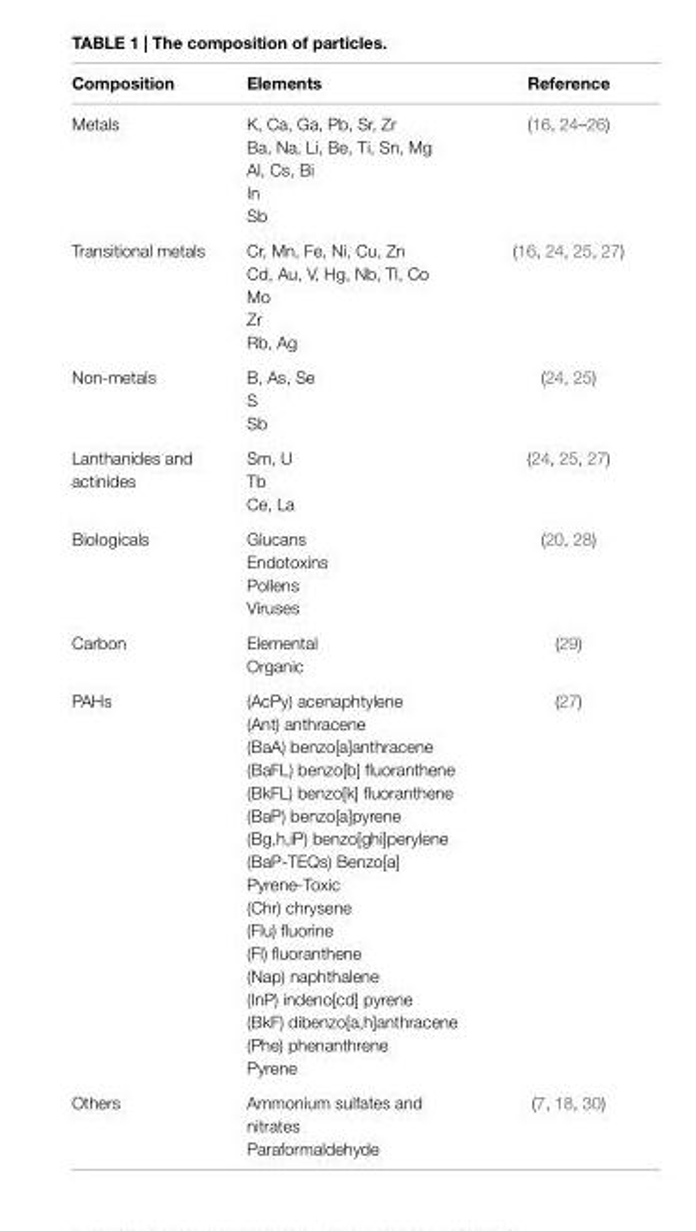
<table><thead><tr><td>Composition</td><td>elements</td><td>Reference</td></tr></thead><tbody><tr><td rowspan="5">Metals</td><td>K, Ca, Ga, Pb, Sr, Zr</td><td rowspan="5">(16, 24–26)</td></tr><tr><td>Ba, Na, Li, Be, Ti, Sn, Mg</td></tr><tr><td>Al, Cs, Bi</td></tr><tr><td>In</td></tr><tr><td>Sb</td></tr><tr><td rowspan="5">Transitional metals</td><td>Cr, Mn, Fe, Ni, Cu, Zn</td><td rowspan="5">(16, 24, 25, 27)</td></tr><tr><td>Cd, Au, V, Hg, Nb, Tl, Co</td></tr><tr><td>Mo</td></tr><tr><td>Zr</td></tr><tr><td>Rb, Ag</td></tr><tr><td rowspan="3">Non-metals</td><td>B, As, Se</td><td rowspan="3">(24, 25)</td></tr><tr><td>S</td></tr><tr><td>Sb</td></tr><tr><td rowspan="3">Lanthanides and actinides</td><td>Sm, U</td><td rowspan="3">(24, 25, 27)</td></tr><tr><td>Tb</td></tr><tr><td>Ce, La</td></tr><tr><td rowspan="4">Biologicals</td><td>Glucans</td><td rowspan="4">(20, 28)</td></tr><tr><td>Endotoxins</td></tr><tr><td>Pollens</td></tr><tr><td>Viruses</td></tr><tr><td rowspan="2">Carbon</td><td>Elemental</td><td rowspan="2">(29)</td></tr><tr><td>Organic</td></tr><tr><td rowspan="16">PAHs</td><td>(AcPy) acenaphtylene</td><td rowspan="16">(27)</td></tr><tr><td>(Ant) anthracene</td></tr><tr><td>(BaA) benzo[a]anthracene</td></tr><tr><td>(BaFL) benzo[b] fluoranthene</td></tr><tr><td>(BkFL) benzo[k] fluoranthene</td></tr><tr><td>(BaP) benzo[a]pyrene</td></tr><tr><td>(Bg,h,iP) benzo[ghi]perylene</td></tr><tr><td>(BaP-TEQs) Benzo[a] Pyrene-Toxic</td></tr><tr><td>(Chr) chrysene</td></tr><tr><td>(Flu) fluorine</td></tr><tr><td>(Fl) fluoranthene</td></tr><tr><td>(Nap) naphthalene</td></tr><tr><td>(InP) indeno[cd] pyrene</td></tr><tr><td>(BkF) dibenzo[a,h]anthracene</td></tr><tr><td>(Phe) phenanthrene</td></tr><tr><td>Pyrene</td></tr><tr><td rowspan="2">Others</td><td>Ammonium sulfates and nitrates</td><td rowspan="2">(7, 18, 30)</td></tr><tr><td>Paraformaldehyde</td></tr></tbody></table>